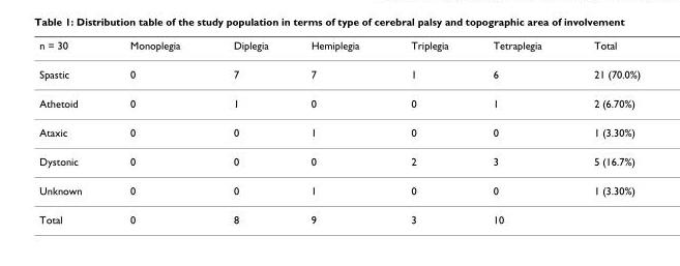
<table><tbody><tr><td>n = 30</td><td>Monoplegia</td><td>Diplegia</td><td>Hemiplegia</td><td>Triplegia</td><td>Tetraplegia</td><td>Total</td></tr><tr><td>Spastic</td><td>0</td><td>7</td><td>7</td><td>1</td><td>6</td><td>21 (70.0%)</td></tr><tr><td>Athetoid</td><td>0</td><td>1</td><td>0</td><td>0</td><td>1</td><td>2 (6.70%)</td></tr><tr><td>Ataxic</td><td>0</td><td>0</td><td>1</td><td>0</td><td>0</td><td>1 (3.30%)</td></tr><tr><td>Dystonic</td><td>0</td><td>0</td><td>0</td><td>2</td><td>3</td><td>5 (16.7%)</td></tr><tr><td>Unknown</td><td>0</td><td>0</td><td>1</td><td>0</td><td>0</td><td>1 (3.30%)</td></tr><tr><td>Total</td><td>0</td><td>8</td><td>9</td><td>3</td><td>10</td><td></td></tr></tbody></table>